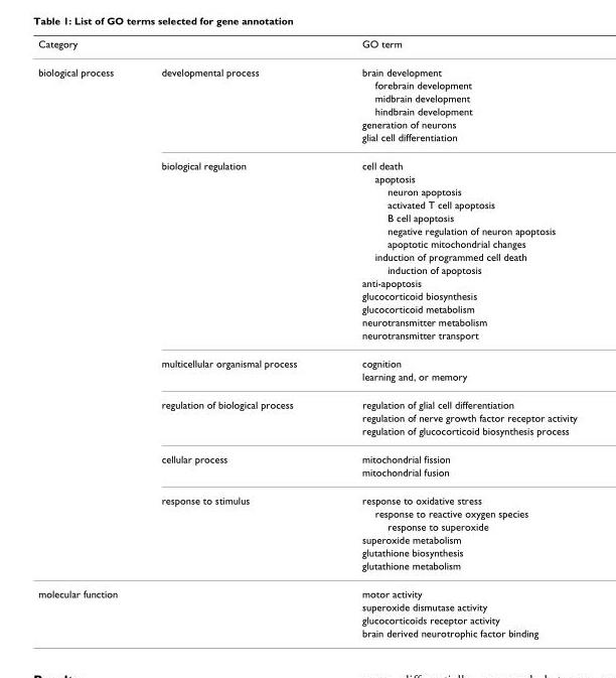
<table><thead><tr><td>Category</td><td></td><td>GO term</td></tr></thead><tbody><tr><td rowspan="33">biological process</td><td>developmental process</td><td>brain development</td></tr><tr><td></td><td>forebrain development</td></tr><tr><td></td><td>midbrain development</td></tr><tr><td></td><td>hindbrain development</td></tr><tr><td></td><td>generation of neurons</td></tr><tr><td></td><td>glial cell differentiation</td></tr><tr><td>biological regulation</td><td>cell death</td></tr><tr><td></td><td>apoptosis</td></tr><tr><td></td><td>neuron apoptosis</td></tr><tr><td></td><td>activated T cell apoptosis</td></tr><tr><td></td><td>B cell apoptosis</td></tr><tr><td></td><td>negative regulation of neuron apoptosis</td></tr><tr><td></td><td>apoptotic mitochondrial changes</td></tr><tr><td></td><td>induction of programmed cell death</td></tr><tr><td></td><td>induction of apoptosis</td></tr><tr><td></td><td>anti-apoptosis</td></tr><tr><td></td><td>glucocorticoid biosynthesis</td></tr><tr><td></td><td>glucocorticoid metabolism</td></tr><tr><td></td><td>neurotransmitter metabolism</td></tr><tr><td></td><td>neurotransmitter transport</td></tr><tr><td>multicellular organismal process</td><td>cognition</td></tr><tr><td></td><td>learning and, or memory</td></tr><tr><td>regulation of biological process</td><td>regulation of glial cell differentiation</td></tr><tr><td></td><td>regulation of nerve growth factor receptor activity</td></tr><tr><td></td><td>regulation of glucocorticoid biosynthesis process</td></tr><tr><td>cellular process</td><td>mitochondrial fission</td></tr><tr><td></td><td>mitochondrial fusion</td></tr><tr><td>response to stimulus</td><td>response to oxidative stress</td></tr><tr><td></td><td>response to reactive oxygen species</td></tr><tr><td></td><td>response to superoxide</td></tr><tr><td></td><td>superoxide metabolism</td></tr><tr><td></td><td>glutathione biosynthesis</td></tr><tr><td></td><td>glutathione metabolism</td></tr><tr><td rowspan="4">molecular function</td><td></td><td>motor activity</td></tr><tr><td></td><td>superoxide dismutase activity</td></tr><tr><td></td><td>glucocorticoids receptor activity</td></tr><tr><td></td><td>brain derived neurotrophic factor binding</td></tr></tbody></table>